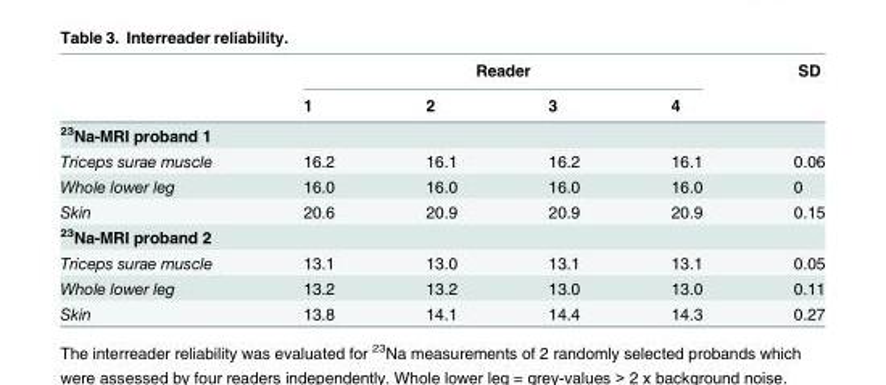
<table><thead><tr><td rowspan="2"></td><td colspan="4">Reader</td><td rowspan="2">SD</td></tr><tr><td>1</td><td>2</td><td>3</td><td>4</td></tr></thead><tbody><tr><td colspan="6"><sup>23</sup>Na-MRI proband 1</td></tr><tr><td>Triceps surae muscle</td><td>16.2</td><td>16.1</td><td>16.2</td><td>16.1</td><td>0.06</td></tr><tr><td>Whole lower leg</td><td>16.0</td><td>16.0</td><td>16.0</td><td>16.0</td><td>0</td></tr><tr><td>Skin</td><td>20.6</td><td>20.9</td><td>20.9</td><td>20.9</td><td>0.15</td></tr><tr><td colspan="6"><sup>23</sup>Na-MRI proband 2</td></tr><tr><td>Triceps surae muscle</td><td>13.1</td><td>13.0</td><td>13.1</td><td>13.1</td><td>0.05</td></tr><tr><td>Whole lower leg</td><td>13.2</td><td>13.2</td><td>13.0</td><td>13.0</td><td>0.11</td></tr><tr><td>Skin</td><td>13.8</td><td>14.1</td><td>14.4</td><td>14.3</td><td>0.27</td></tr></tbody></table>